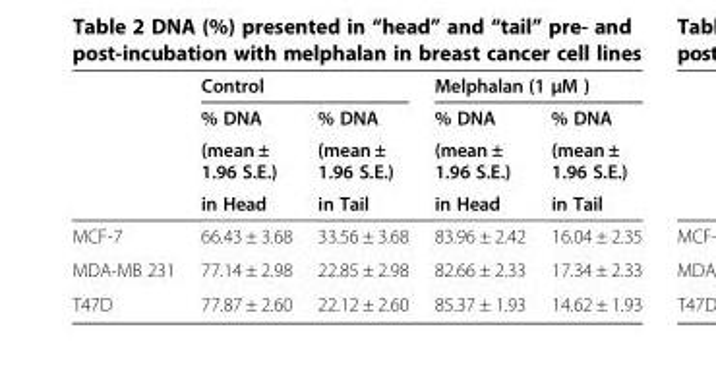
<table><thead><tr><td rowspan="4"></td><td colspan="2">Control</td><td colspan="2">Melphalan (1 μM )</td></tr><tr><td rowspan="3">% DNA (mean ± 1.96 S.E.) in Head</td><td rowspan="3">% DNA (mean ± 1.96 S.E.) in Tail</td><td rowspan="3">% DNA (mean ± 1.96 S.E.) in Head</td><td rowspan="3">% DNA (mean ± 1.96 S.E.) in Tail</td></tr><tr></tr><tr></tr></thead><tbody><tr><td>MCF-7</td><td>66.43 ± 3.68</td><td>33.56 ± 3.68</td><td>83.96 ± 2.42</td><td>16.04 ± 2.35</td></tr><tr><td>MDA-MB 231</td><td>77.14 ± 2.98</td><td>22.85 ± 2.98</td><td>82.66 ± 2.33</td><td>17.34 ± 2.33</td></tr><tr><td>T47D</td><td>77.87 ± 2.60</td><td>22.12 ± 2.60</td><td>85.37 ± 1.93</td><td>14.62 ± 1.93</td></tr></tbody></table>